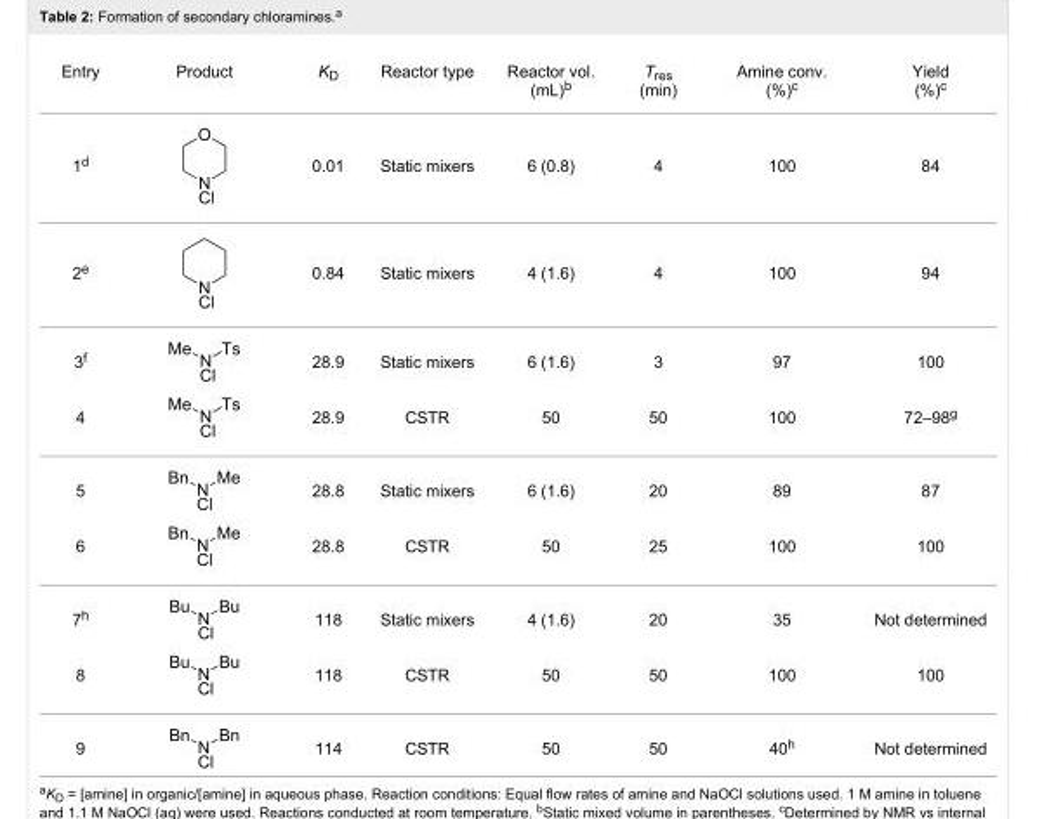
<table><tbody><tr><td>Entry</td><td>Product</td><td>K<sub>D</sub></td><td>Reactor type</td><td>Reactor vol. (mL)<sup>b</sup></td><td>T<sub>res</sub> (min)</td><td>Amine conv. (%)<sup>c</sup></td><td>Yield (%)<sup>c</sup></td></tr><tr><td>1<sup>d</sup></td><td></td><td>0.01</td><td>Static mixers</td><td>6 (0.8)</td><td>4</td><td>100</td><td>84</td></tr><tr><td>2<sup>e</sup></td><td></td><td>0.84</td><td>Static mixers</td><td>4 (1.6)</td><td>4</td><td>100</td><td>94</td></tr><tr><td>3<sup>f</sup></td><td></td><td>28.9</td><td>Static mixers</td><td>6 (1.6)</td><td>3</td><td>97</td><td>100</td></tr><tr><td>4</td><td></td><td>28.9</td><td>CSTR</td><td>50</td><td>50</td><td>100</td><td>72–98<sup>g</sup></td></tr><tr><td>5</td><td></td><td>28.8</td><td>Static mixers</td><td>6 (1.6)</td><td>20</td><td>89</td><td>87</td></tr><tr><td>6</td><td></td><td>28.8</td><td>CSTR</td><td>50</td><td>25</td><td>100</td><td>100</td></tr><tr><td>7<sup>h</sup></td><td></td><td>118</td><td>Static mixers</td><td>4 (1.6)</td><td>20</td><td>35</td><td>Not determined</td></tr><tr><td>8</td><td></td><td>118</td><td>CSTR</td><td>50</td><td>50</td><td>100</td><td>100</td></tr><tr><td>9</td><td></td><td>114</td><td>CSTR</td><td>50</td><td>50</td><td>40<sup>h</sup></td><td>Not determined</td></tr></tbody></table>